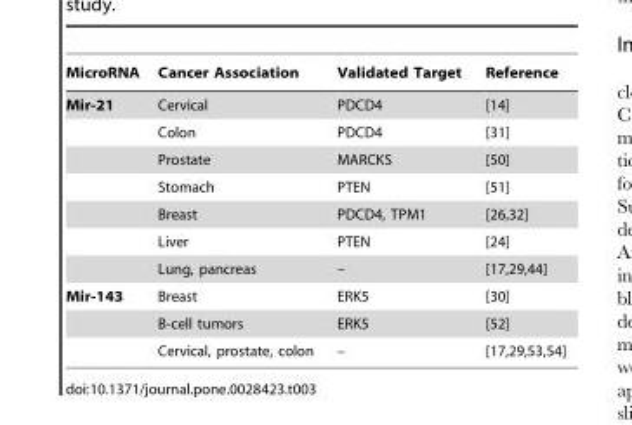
<table><thead><tr><td>MicroRNA</td><td>Cancer Association</td><td>Validated Target</td><td>Reference</td></tr></thead><tbody><tr><td rowspan="7">Mir-21</td><td>Cervical</td><td>PDCD4</td><td>[14]</td></tr><tr><td>Colon</td><td>PDCD4</td><td>[31]</td></tr><tr><td>Prostate</td><td>MARCKS</td><td>[50]</td></tr><tr><td>Stomach</td><td>PTEN</td><td>[51]</td></tr><tr><td>Breast</td><td>PDCD4, TPM1</td><td>[26,32]</td></tr><tr><td>Liver</td><td>PTEN</td><td>[24]</td></tr><tr><td>Lung, pancreas</td><td>–</td><td>[17,29,44]</td></tr><tr><td rowspan="3">Mir-143</td><td>Breast</td><td>ERK5</td><td>[30]</td></tr><tr><td>B-cell tumors</td><td>ERK5</td><td>[52]</td></tr><tr><td>Cervical, prostate, colon</td><td>–</td><td>[17,29,53,54]</td></tr></tbody></table>